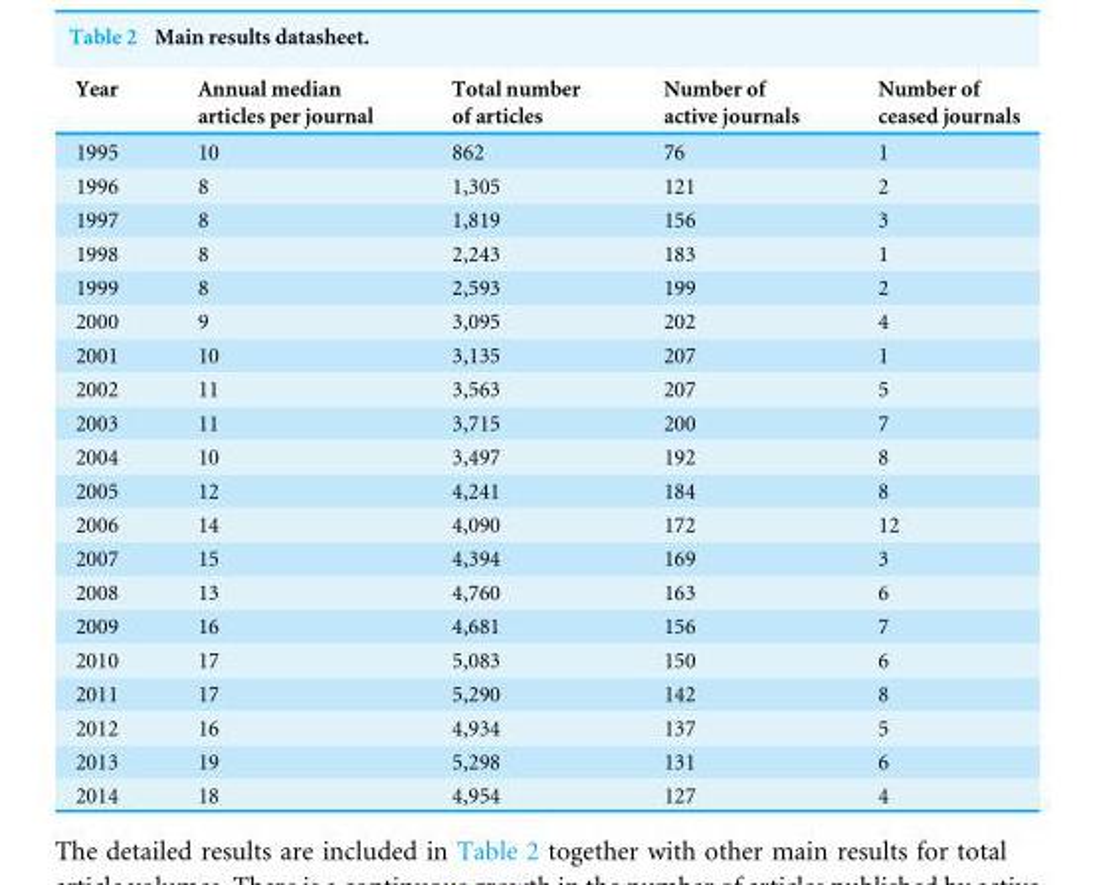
<table><thead><tr><td>Year</td><td>Annual median articles per journal</td><td>Total number of articles</td><td>Number of active journals</td><td>Number of ceased journals</td></tr></thead><tbody><tr><td>1995</td><td>10</td><td>862</td><td>76</td><td>1</td></tr><tr><td>1996</td><td>8</td><td>1,305</td><td>121</td><td>2</td></tr><tr><td>1997</td><td>8</td><td>1,819</td><td>156</td><td>3</td></tr><tr><td>1998</td><td>8</td><td>2,243</td><td>183</td><td>1</td></tr><tr><td>1999</td><td>8</td><td>2,593</td><td>199</td><td>2</td></tr><tr><td>2000</td><td>9</td><td>3,095</td><td>202</td><td>4</td></tr><tr><td>2001</td><td>10</td><td>3,135</td><td>207</td><td>1</td></tr><tr><td>2002</td><td>11</td><td>3,563</td><td>207</td><td>5</td></tr><tr><td>2003</td><td>11</td><td>3,715</td><td>200</td><td>7</td></tr><tr><td>2004</td><td>10</td><td>3,497</td><td>192</td><td>8</td></tr><tr><td>2005</td><td>12</td><td>4,241</td><td>184</td><td>8</td></tr><tr><td>2006</td><td>14</td><td>4,090</td><td>172</td><td>12</td></tr><tr><td>2007</td><td>15</td><td>4,394</td><td>169</td><td>3</td></tr><tr><td>2008</td><td>13</td><td>4,760</td><td>163</td><td>6</td></tr><tr><td>2009</td><td>16</td><td>4,681</td><td>156</td><td>7</td></tr><tr><td>2010</td><td>17</td><td>5,083</td><td>150</td><td>6</td></tr><tr><td>2011</td><td>17</td><td>5,290</td><td>142</td><td>8</td></tr><tr><td>2012</td><td>16</td><td>4,934</td><td>137</td><td>5</td></tr><tr><td>2013</td><td>19</td><td>5,298</td><td>131</td><td>6</td></tr><tr><td>2014</td><td>18</td><td>4,954</td><td>127</td><td>4</td></tr></tbody></table>